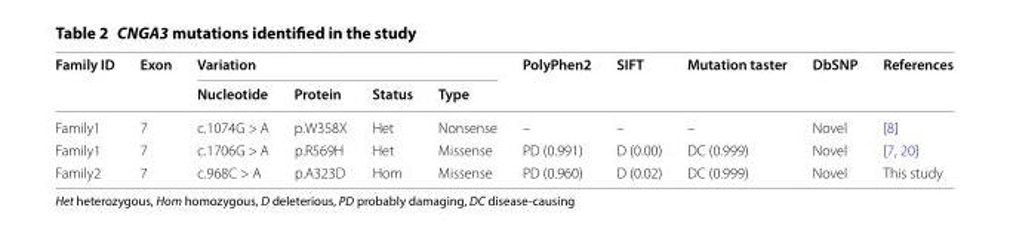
<table><thead><tr><td rowspan="2">Family ID</td><td rowspan="2">Exon</td><td colspan="4">Variation</td><td rowspan="2">PolyPhen2</td><td rowspan="2">SIFT</td><td rowspan="2">Mutation taster</td><td rowspan="2">DbSNP</td><td rowspan="2">References</td></tr><tr><td>Nucleotide</td><td>Protein</td><td>Status</td><td>Type</td></tr></thead><tbody><tr><td>Family1</td><td>7</td><td>c.1074G &gt; A</td><td>p.W358X</td><td>Het</td><td>Nonsense</td><td>–</td><td>–</td><td>–</td><td>Novel</td><td>[8]</td></tr><tr><td>Family1</td><td>7</td><td>c.1706G &gt; A</td><td>p.R569H</td><td>Het</td><td>Missense</td><td>PD (0.991)</td><td>D (0.00)</td><td>DC (0.999)</td><td>Novel</td><td>[7, 20]</td></tr><tr><td>Family2</td><td>7</td><td>c.968C &gt; A</td><td>p.A323D</td><td>Hom</td><td>Missense</td><td>PD (0.960)</td><td>D (0.02)</td><td>DC (0.999)</td><td>Novel</td><td>This study</td></tr></tbody></table>